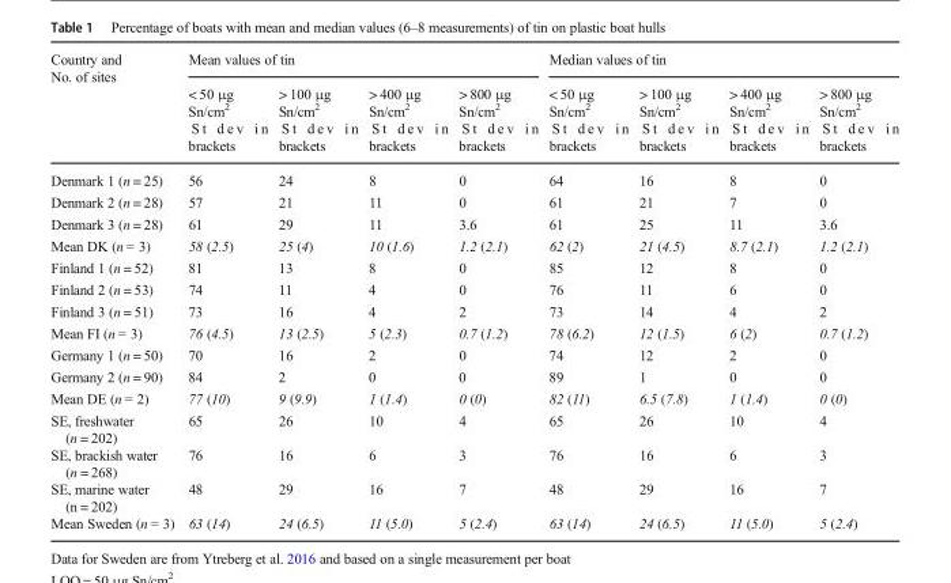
<table><thead><tr><td rowspan="2">Country and No. of sites</td><td colspan="4">Mean values of tin</td><td colspan="4">Median values of tin</td></tr><tr><td>&lt; 50 μg Sn/cm<sup>2</sup> S t d e v i n brackets</td><td>&gt; 100 μg Sn/cm<sup>2</sup> S t d e v i n brackets</td><td>&gt; 400 μg Sn/cm<sup>2</sup> S t d e v i n brackets</td><td>&gt; 800 μg Sn/cm<sup>2</sup> S t d e v i n brackets</td><td>&lt; 50 μg Sn/cm<sup>2</sup> S t d e v i n brackets</td><td>&gt; 100 μg Sn/cm<sup>2</sup> S t d e v i n brackets</td><td>&gt; 400 μg Sn/cm<sup>2</sup> S t d e v i n brackets</td><td>&gt; 800 μg Sn/cm<sup>2</sup> S t d e v i n brackets</td></tr></thead><tbody><tr><td>Denmark 1 (n = 25)</td><td>56</td><td>24</td><td>8</td><td>0</td><td>64</td><td>16</td><td>8</td><td>0</td></tr><tr><td>Denmark 2 (n = 28)</td><td>57</td><td>21</td><td>11</td><td>0</td><td>61</td><td>21</td><td>7</td><td>0</td></tr><tr><td>Denmark 3 (n = 28)</td><td>61</td><td>29</td><td>11</td><td>3.6</td><td>61</td><td>25</td><td>11</td><td>3.6</td></tr><tr><td>Mean DK (n = 3)</td><td>58 (2.5)</td><td>25 (4)</td><td>10 (1.6)</td><td>1.2 (2.1)</td><td>62 (2)</td><td>21 (4.5)</td><td>8.7 (2.1)</td><td>1.2 (2.1)</td></tr><tr><td>Finland 1 (n = 52)</td><td>81</td><td>13</td><td>8</td><td>0</td><td>85</td><td>12</td><td>8</td><td>0</td></tr><tr><td>Finland 2 (n = 53)</td><td>74</td><td>11</td><td>4</td><td>0</td><td>76</td><td>11</td><td>6</td><td>0</td></tr><tr><td>Finland 3 (n = 51)</td><td>73</td><td>16</td><td>4</td><td>2</td><td>73</td><td>14</td><td>4</td><td>2</td></tr><tr><td>Mean FI (n = 3)</td><td>76 (4.5)</td><td>13 (2.5)</td><td>5 (2.3)</td><td>0.7 (1.2)</td><td>78 (6.2)</td><td>12 (1.5)</td><td>6 (2)</td><td>0.7 (1.2)</td></tr><tr><td>Germany 1 (n = 50)</td><td>70</td><td>16</td><td>2</td><td>0</td><td>74</td><td>12</td><td>2</td><td>0</td></tr><tr><td>Germany 2 (n = 90)</td><td>84</td><td>2</td><td>0</td><td>0</td><td>89</td><td>1</td><td>0</td><td>0</td></tr><tr><td>Mean DE (n = 2)</td><td>77 (10)</td><td>9 (9.9)</td><td>1 (1.4)</td><td>0 (0)</td><td>82 (11)</td><td>6.5 (7.8)</td><td>1 (1.4)</td><td>0 (0)</td></tr><tr><td>SE, freshwater (n = 202)</td><td>65</td><td>26</td><td>10</td><td>4</td><td>65</td><td>26</td><td>10</td><td>4</td></tr><tr><td>SE, brackish water (n = 268)</td><td>76</td><td>16</td><td>6</td><td>3</td><td>76</td><td>16</td><td>6</td><td>3</td></tr><tr><td>SE, marine water (n = 202)</td><td>48</td><td>29</td><td>16</td><td>7</td><td>48</td><td>29</td><td>16</td><td>7</td></tr><tr><td>Mean Sweden (n = 3)</td><td>63 (14)</td><td>24 (6.5)</td><td>11 (5.0)</td><td>5 (2.4)</td><td>63 (14)</td><td>24 (6.5)</td><td>11 (5.0)</td><td>5 (2.4)</td></tr></tbody></table>